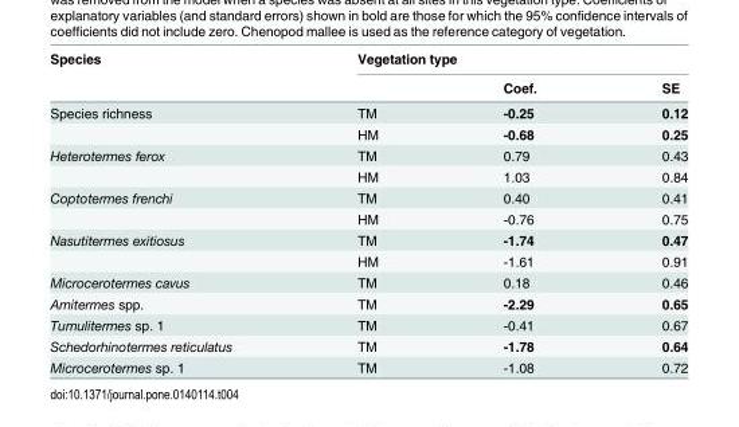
<table><thead><tr><td rowspan="2">Species</td><td colspan="3">Vegetation type</td></tr><tr><td></td><td>Coef.</td><td>SE</td></tr></thead><tbody><tr><td rowspan="2">Species richness</td><td>TM</td><td>-0.25</td><td>0.12</td></tr><tr><td>HM</td><td>-0.68</td><td>0.25</td></tr><tr><td rowspan="2">Heterotermes ferox</td><td>TM</td><td>0.79</td><td>0.43</td></tr><tr><td>HM</td><td>1.03</td><td>0.84</td></tr><tr><td rowspan="2">Coptotermes frenchi</td><td>TM</td><td>0.40</td><td>0.41</td></tr><tr><td>HM</td><td>-0.76</td><td>0.75</td></tr><tr><td rowspan="2">Nasutitermes exitiosus</td><td>TM</td><td>-1.74</td><td>0.47</td></tr><tr><td>HM</td><td>-1.61</td><td>0.91</td></tr><tr><td>Microcerotermes cavus</td><td>TM</td><td>0.18</td><td>0.46</td></tr><tr><td>Amitermes spp.</td><td>TM</td><td>-2.29</td><td>0.65</td></tr><tr><td>Tumulitermes sp. 1</td><td>TM</td><td>-0.41</td><td>0.67</td></tr><tr><td>Schedorhinotermes reticulatus</td><td>TM</td><td>-1.78</td><td>0.64</td></tr><tr><td>Microcerotermes sp. 1</td><td>TM</td><td>-1.08</td><td>0.72</td></tr></tbody></table>